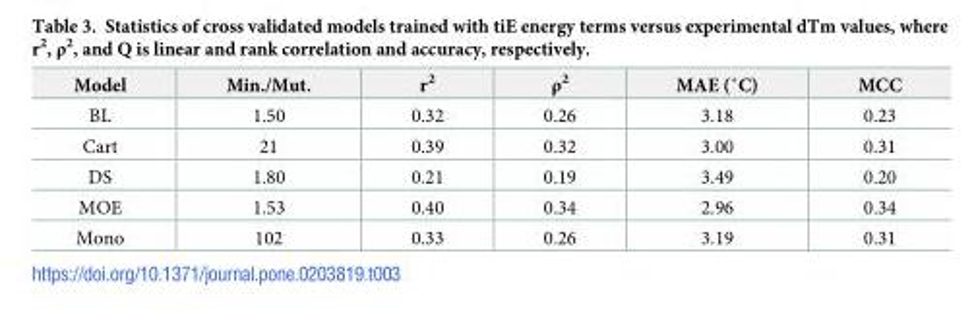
<table><thead><tr><td>Model</td><td>Min./Mut.</td><td>r<sup>2</sup></td><td>ρ<sup>2</sup></td><td>MAE (˚C)</td><td>MCC</td></tr></thead><tbody><tr><td>BL</td><td>1.50</td><td>0.32</td><td>0.26</td><td>3.18</td><td>0.23</td></tr><tr><td>Cart</td><td>21</td><td>0.39</td><td>0.32</td><td>3.00</td><td>0.31</td></tr><tr><td>DS</td><td>1.80</td><td>0.21</td><td>0.19</td><td>3.49</td><td>0.20</td></tr><tr><td>MOE</td><td>1.53</td><td>0.40</td><td>0.34</td><td>2.96</td><td>0.34</td></tr><tr><td>Mono</td><td>102</td><td>0.33</td><td>0.26</td><td>3.19</td><td>0.31</td></tr></tbody></table>